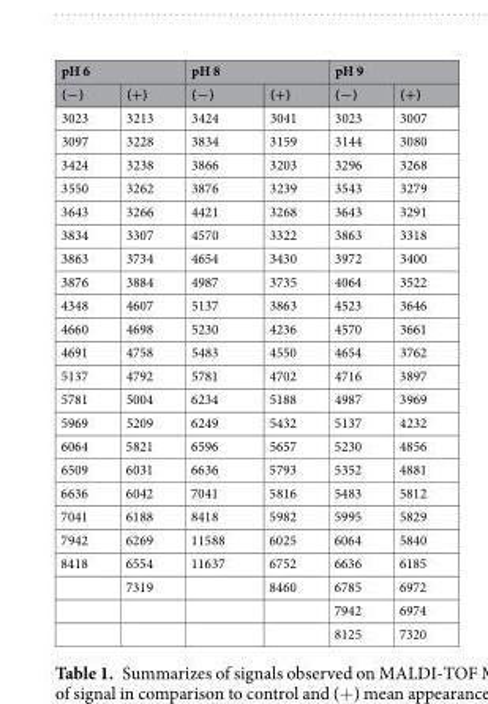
<table><thead><tr><td colspan="2">pH 6</td><td colspan="2">pH 8</td><td colspan="2">pH 9</td></tr><tr><td>(−)</td><td>(+)</td><td>(−)</td><td>(+)</td><td>(−)</td><td>(+)</td></tr></thead><tbody><tr><td>3023</td><td>3213</td><td>3424</td><td>3041</td><td>3023</td><td>3007</td></tr><tr><td>3097</td><td>3228</td><td>3834</td><td>3159</td><td>3144</td><td>3080</td></tr><tr><td>3424</td><td>3238</td><td>3866</td><td>3203</td><td>3296</td><td>3268</td></tr><tr><td>3550</td><td>3262</td><td>3876</td><td>3239</td><td>3543</td><td>3279</td></tr><tr><td>3643</td><td>3266</td><td>4421</td><td>3268</td><td>3643</td><td>3291</td></tr><tr><td>3834</td><td>3307</td><td>4570</td><td>3322</td><td>3863</td><td>3318</td></tr><tr><td>3863</td><td>3734</td><td>4654</td><td>3430</td><td>3972</td><td>3400</td></tr><tr><td>3876</td><td>3884</td><td>4987</td><td>3735</td><td>4064</td><td>3522</td></tr><tr><td>4348</td><td>4607</td><td>5137</td><td>3863</td><td>4523</td><td>3646</td></tr><tr><td>4660</td><td>4698</td><td>5230</td><td>4236</td><td>4570</td><td>3661</td></tr><tr><td>4691</td><td>4758</td><td>5483</td><td>4550</td><td>4654</td><td>3762</td></tr><tr><td>5137</td><td>4792</td><td>5781</td><td>4702</td><td>4716</td><td>3897</td></tr><tr><td>5781</td><td>5004</td><td>6234</td><td>5188</td><td>4987</td><td>3969</td></tr><tr><td>5969</td><td>5209</td><td>6249</td><td>5432</td><td>5137</td><td>4232</td></tr><tr><td>6064</td><td>5821</td><td>6596</td><td>5657</td><td>5230</td><td>4856</td></tr><tr><td>6509</td><td>6031</td><td>6636</td><td>5793</td><td>5352</td><td>4881</td></tr><tr><td>6636</td><td>6042</td><td>7041</td><td>5816</td><td>5483</td><td>5812</td></tr><tr><td>7041</td><td>6188</td><td>8418</td><td>5982</td><td>5995</td><td>5829</td></tr><tr><td>7942</td><td>6269</td><td>11588</td><td>6025</td><td>6064</td><td>5840</td></tr><tr><td rowspan="4">8418</td><td>6554</td><td>11637</td><td>6752</td><td>6636</td><td>6185</td></tr><tr><td>7319</td><td></td><td>8460</td><td>6785</td><td>6972</td></tr><tr><td></td><td></td><td></td><td>7942</td><td>6974</td></tr><tr><td></td><td></td><td></td><td>8125</td><td>7320</td></tr></tbody></table>